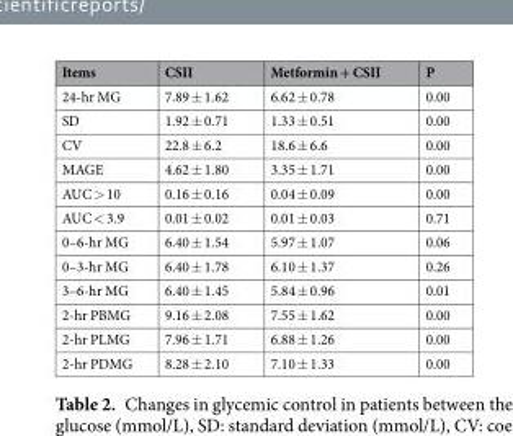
<table><thead><tr><td>Items</td><td>CSII</td><td>Metformin + CSII</td><td>P</td></tr></thead><tbody><tr><td>24-hr MG</td><td>7.89 ± 1.62</td><td>6.62 ± 0.78</td><td>0.00</td></tr><tr><td>SD</td><td>1.92 ± 0.71</td><td>1.33 ± 0.51</td><td>0.00</td></tr><tr><td>CV</td><td>22.8 ± 6.2</td><td>18.6 ± 6.6</td><td>0.00</td></tr><tr><td>MAGE</td><td>4.62 ± 1.80</td><td>3.35 ± 1.71</td><td>0.00</td></tr><tr><td>AUC &gt; 10</td><td>0.16 ± 0.16</td><td>0.04 ± 0.09</td><td>0.00</td></tr><tr><td>AUC &lt; 3.9</td><td>0.01 ± 0.02</td><td>0.01 ± 0.03</td><td>0.71</td></tr><tr><td>0–6-hr MG</td><td>6.40 ± 1.54</td><td>5.97 ± 1.07</td><td>0.06</td></tr><tr><td>0–3-hr MG</td><td>6.40 ± 1.78</td><td>6.10 ± 1.37</td><td>0.26</td></tr><tr><td>3–6-hr MG</td><td>6.40 ± 1.45</td><td>5.84 ± 0.96</td><td>0.01</td></tr><tr><td>2-hr PBMG</td><td>9.16 ± 2.08</td><td>7.55 ± 1.62</td><td>0.00</td></tr><tr><td>2-hr PLMG</td><td>7.96 ± 1.71</td><td>6.88 ± 1.26</td><td>0.00</td></tr><tr><td>2-hr PDMG</td><td>8.28 ± 2.10</td><td>7.10 ± 1.33</td><td>0.00</td></tr></tbody></table>